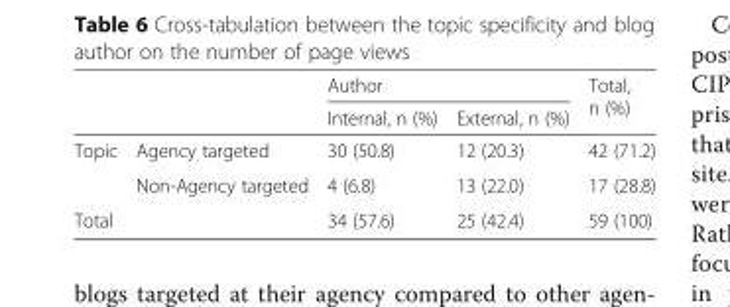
<table><thead><tr><td rowspan="2"></td><td rowspan="2"></td><td colspan="2">Author</td><td rowspan="2">Total, n (%)</td></tr><tr><td>Internal, n (%)</td><td>External, n (%)</td></tr></thead><tbody><tr><td rowspan="2">Topic</td><td>Agency targeted</td><td>30 (50.8)</td><td>12 (20.3)</td><td>42 (71.2)</td></tr><tr><td>Non-Agency targeted</td><td>4 (6.8)</td><td>13 (22.0)</td><td>17 (28.8)</td></tr><tr><td colspan="2">Total</td><td>34 (57.6)</td><td>25 (42.4)</td><td>59 (100)</td></tr></tbody></table>